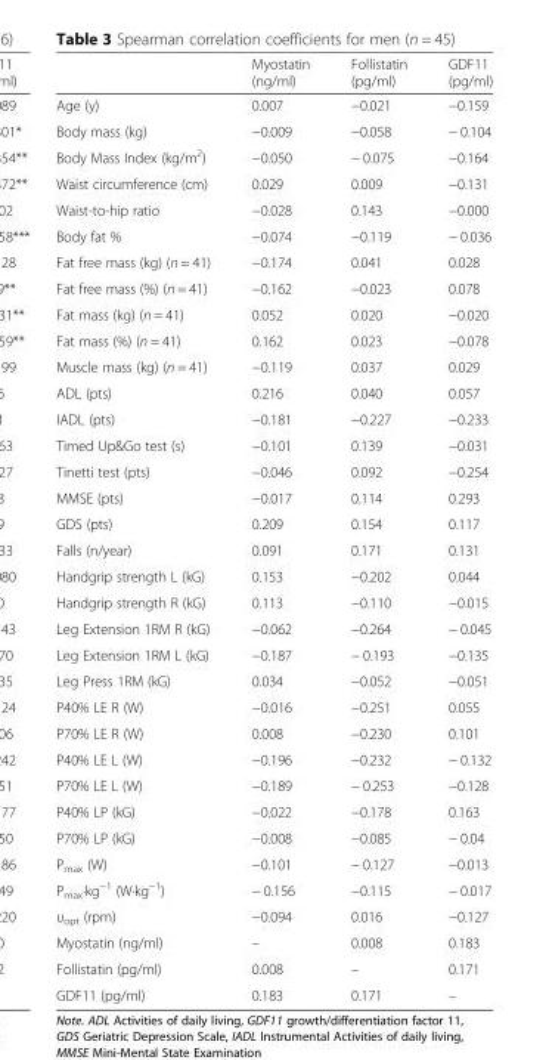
<table><thead><tr><td></td><td>Myostatin (ng/ml)</td><td>Follistatin (pg/ml)</td><td>GDF11 (pg/ml)</td></tr></thead><tbody><tr><td>Age (y)</td><td>0.007</td><td>−0.021</td><td>−0.159</td></tr><tr><td>Body mass (kg)</td><td>−0.009</td><td>−0.058</td><td>− 0.104</td></tr><tr><td>Body Mass Index (kg/m<sup>2</sup>)</td><td>−0.050</td><td>− 0.075</td><td>−0.164</td></tr><tr><td>Waist circumference (cm)</td><td>0.029</td><td>0.009</td><td>−0.131</td></tr><tr><td>Waist-to-hip ratio</td><td>−0.028</td><td>0.143</td><td>−0.000</td></tr><tr><td>Body fat %</td><td>−0.074</td><td>−0.119</td><td>− 0.036</td></tr><tr><td>Fat free mass (kg) (n = 41)</td><td>−0.174</td><td>0.041</td><td>0.028</td></tr><tr><td>Fat free mass (%) (n = 41)</td><td>−0.162</td><td>−0.023</td><td>0.078</td></tr><tr><td>Fat mass (kg) (n = 41)</td><td>0.052</td><td>0.020</td><td>−0.020</td></tr><tr><td>Fat mass (%) (n = 41)</td><td>0.162</td><td>0.023</td><td>−0.078</td></tr><tr><td>Muscle mass (kg) (n = 41)</td><td>−0.119</td><td>0.037</td><td>0.029</td></tr><tr><td>ADL (pts)</td><td>0.216</td><td>0.040</td><td>0.057</td></tr><tr><td>IADL (pts)</td><td>−0.181</td><td>−0.227</td><td>−0.233</td></tr><tr><td>Timed Up&amp;Go test (s)</td><td>−0.101</td><td>0.139</td><td>−0.031</td></tr><tr><td>Tinetti test (pts)</td><td>−0.046</td><td>0.092</td><td>−0.254</td></tr><tr><td>MMSE (pts)</td><td>−0.017</td><td>0.114</td><td>0.293</td></tr><tr><td>GDS (pts)</td><td>0.209</td><td>0.154</td><td>0.117</td></tr><tr><td>Falls (n/year)</td><td>0.091</td><td>0.171</td><td>0.131</td></tr><tr><td>Handgrip strength L (kG)</td><td>0.153</td><td>−0.202</td><td>0.044</td></tr><tr><td>Handgrip strength R (kG)</td><td>0.113</td><td>−0.110</td><td>−0.015</td></tr><tr><td>Leg Extension 1RM R (kG)</td><td>−0.062</td><td>−0.264</td><td>− 0.045</td></tr><tr><td>Leg Extension 1RM L (kG)</td><td>−0.187</td><td>− 0.193</td><td>−0.135</td></tr><tr><td>Leg Press 1RM (kG)</td><td>0.034</td><td>−0.052</td><td>−0.051</td></tr><tr><td>P40% LE R (W)</td><td>−0.016</td><td>−0.251</td><td>0.055</td></tr><tr><td>P70% LE R (W)</td><td>0.008</td><td>−0.230</td><td>0.101</td></tr><tr><td>P40% LE L (W)</td><td>−0.196</td><td>−0.232</td><td>− 0.132</td></tr><tr><td>P70% LE L (W)</td><td>−0.189</td><td>− 0.253</td><td>−0.128</td></tr><tr><td>P40% LP (kG)</td><td>−0.022</td><td>−0.178</td><td>0.163</td></tr><tr><td>P70% LP (kG)</td><td>−0.008</td><td>−0.085</td><td>− 0.04</td></tr><tr><td>P<sub>max</sub> (W)</td><td>−0.101</td><td>− 0.127</td><td>−0.013</td></tr><tr><td>P<sub>max</sub>·kg<sup>−1</sup> (W·kg<sup>−1</sup>)</td><td>− 0.156</td><td>−0.115</td><td>− 0.017</td></tr><tr><td>υ<sub>opt</sub> (rpm)</td><td>−0.094</td><td>0.016</td><td>−0.127</td></tr><tr><td>Myostatin (ng/ml)</td><td>–</td><td>0.008</td><td>0.183</td></tr><tr><td>Follistatin (pg/ml)</td><td>0.008</td><td>–</td><td>0.171</td></tr><tr><td>GDF11 (pg/ml)</td><td>0.183</td><td>0.171</td><td>–</td></tr></tbody></table>